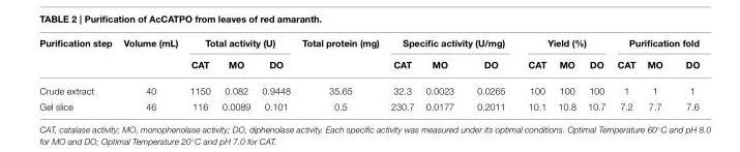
<table><thead><tr><td rowspan="2">Purification step</td><td rowspan="2">Volume (mL)</td><td colspan="3">Total activity (U)</td><td rowspan="2">Total protein (mg)</td><td colspan="3">Specific activity (U/mg)</td><td colspan="3">Yield (%)</td><td colspan="3">Purification fold</td></tr><tr><td>CAT</td><td>MO</td><td>DO</td><td>CAT</td><td>MO</td><td>DO</td><td>CAT</td><td>MO</td><td>DO</td><td>CAT</td><td>MO</td><td>DO</td></tr></thead><tbody><tr><td>Crude extract</td><td>40</td><td>1150</td><td>0.082</td><td>0.9448</td><td>35.65</td><td>32.3</td><td>0.0023</td><td>0.0265</td><td>100</td><td>100</td><td>100</td><td>1</td><td>1</td><td>1</td></tr><tr><td>Gel slice</td><td>46</td><td>116</td><td>0.0089</td><td>0.101</td><td>0.5</td><td>230.7</td><td>0.0177</td><td>0.2011</td><td>10.1</td><td>10.8</td><td>10.7</td><td>7.2</td><td>7.7</td><td>7.6</td></tr></tbody></table>